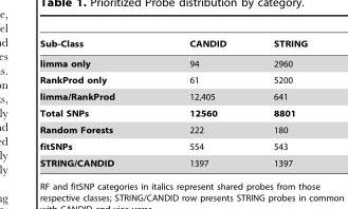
<table><thead><tr><td>Sub-Class</td><td>CANDID</td><td>STRING</td></tr></thead><tbody><tr><td>limma only</td><td>94</td><td>2960</td></tr><tr><td>RankProd only</td><td>61</td><td>5200</td></tr><tr><td>limma/RankProd</td><td>12,405</td><td>641</td></tr><tr><td>Total SNPs</td><td>12560</td><td>8801</td></tr><tr><td>Random Forests</td><td>222</td><td>180</td></tr><tr><td>fitSNPs</td><td>554</td><td>543</td></tr><tr><td>STRING/CANDID</td><td>1397</td><td>1397</td></tr></tbody></table>